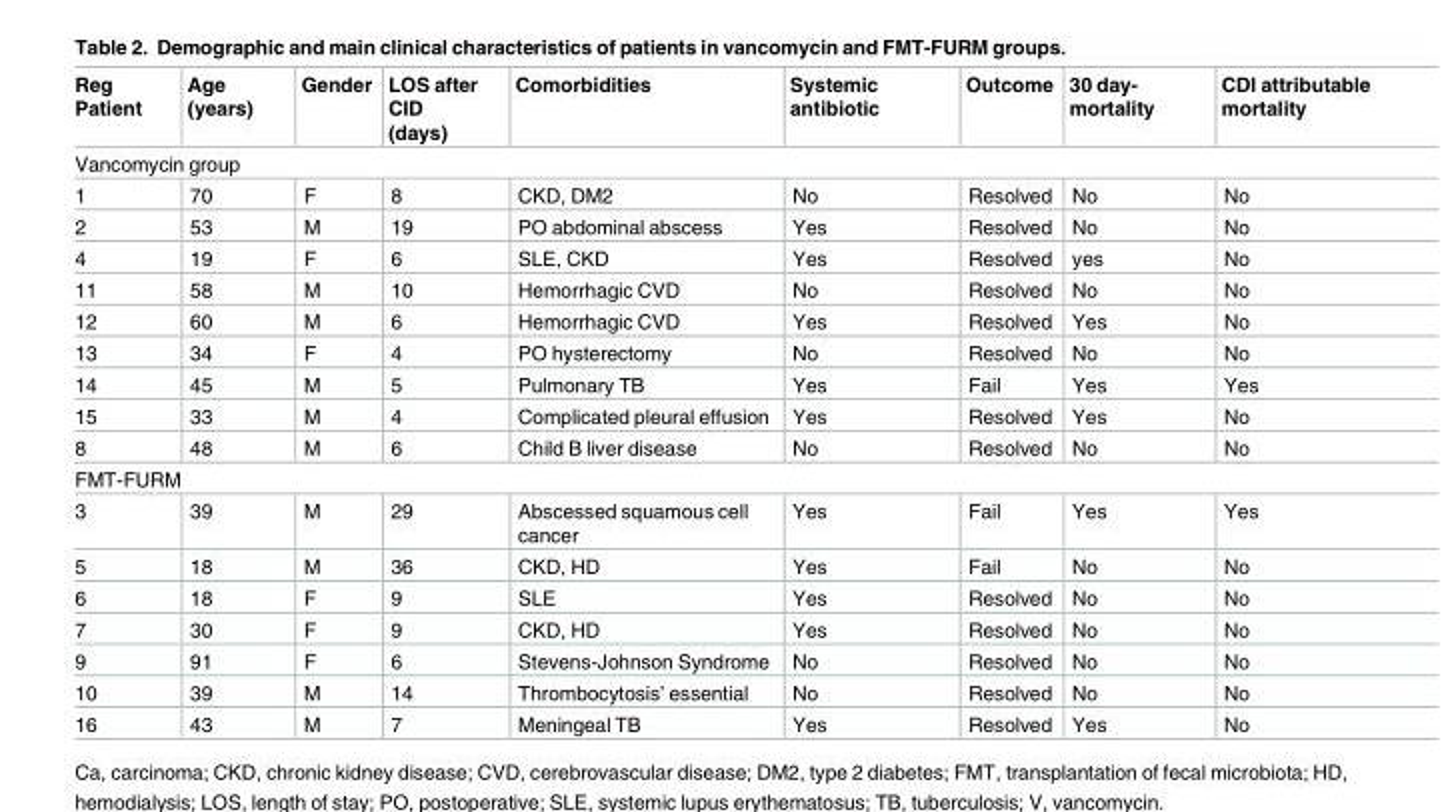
<table><thead><tr><td>Reg Patient</td><td>Age (years)</td><td>Gender</td><td>LOS after CID (days)</td><td>Comorbidities</td><td>Systemic antibiotic</td><td>Outcome</td><td>30 day- mortality</td><td>CDI attributable mortality</td></tr></thead><tbody><tr><td colspan="9">Vancomycin group</td></tr><tr><td>1</td><td>70</td><td>F</td><td>8</td><td>CKD, DM2</td><td>No</td><td>Resolved</td><td>No</td><td>No</td></tr><tr><td>2</td><td>53</td><td>M</td><td>19</td><td>PO abdominal abscess</td><td>Yes</td><td>Resolved</td><td>No</td><td>No</td></tr><tr><td>4</td><td>19</td><td>F</td><td>6</td><td>SLE, CKD</td><td>Yes</td><td>Resolved</td><td>yes</td><td>No</td></tr><tr><td>11</td><td>58</td><td>M</td><td>10</td><td>Hemorrhagic CVD</td><td>No</td><td>Resolved</td><td>No</td><td>No</td></tr><tr><td>12</td><td>60</td><td>M</td><td>6</td><td>Hemorrhagic CVD</td><td>Yes</td><td>Resolved</td><td>Yes</td><td>No</td></tr><tr><td>13</td><td>34</td><td>F</td><td>4</td><td>PO hysterectomy</td><td>No</td><td>Resolved</td><td>No</td><td>No</td></tr><tr><td>14</td><td>45</td><td>M</td><td>5</td><td>Pulmonary TB</td><td>Yes</td><td>Fail</td><td>Yes</td><td>Yes</td></tr><tr><td>15</td><td>33</td><td>M</td><td>4</td><td>Complicated pleural effusion</td><td>Yes</td><td>Resolved</td><td>Yes</td><td>No</td></tr><tr><td>8</td><td>48</td><td>M</td><td>6</td><td>Child B liver disease</td><td>No</td><td>Resolved</td><td>No</td><td>No</td></tr><tr><td colspan="9">FMT-FURM</td></tr><tr><td>3</td><td>39</td><td>M</td><td>29</td><td>Abscessed squamous cell cancer</td><td>Yes</td><td>Fail</td><td>Yes</td><td>Yes</td></tr><tr><td>5</td><td>18</td><td>M</td><td>36</td><td>CKD, HD</td><td>Yes</td><td>Fail</td><td>No</td><td>No</td></tr><tr><td>6</td><td>18</td><td>F</td><td>9</td><td>SLE</td><td>Yes</td><td>Resolved</td><td>No</td><td>No</td></tr><tr><td>7</td><td>30</td><td>F</td><td>9</td><td>CKD, HD</td><td>Yes</td><td>Resolved</td><td>No</td><td>No</td></tr><tr><td>9</td><td>91</td><td>F</td><td>6</td><td>Stevens-Johnson Syndrome</td><td>No</td><td>Resolved</td><td>No</td><td>No</td></tr><tr><td>10</td><td>39</td><td>M</td><td>14</td><td>Thrombocytosis’ essential</td><td>No</td><td>Resolved</td><td>No</td><td>No</td></tr><tr><td>16</td><td>43</td><td>M</td><td>7</td><td>Meningeal TB</td><td>Yes</td><td>Resolved</td><td>Yes</td><td>No</td></tr></tbody></table>